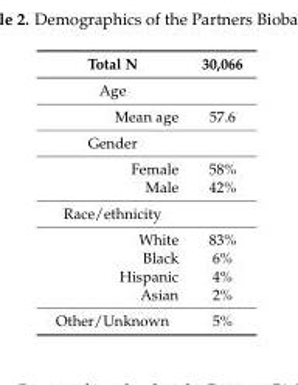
<table><thead><tr><td>Total N</td><td>30,066</td></tr></thead><tbody><tr><td colspan="2">Age</td></tr><tr><td>Mean age</td><td>57.6</td></tr><tr><td colspan="2">Gender</td></tr><tr><td>Female</td><td>58%</td></tr><tr><td>Male</td><td>42%</td></tr><tr><td colspan="2">Race/ethnicity</td></tr><tr><td>White</td><td>83%</td></tr><tr><td>Black</td><td>6%</td></tr><tr><td>Hispanic</td><td>4%</td></tr><tr><td>Asian</td><td>2%</td></tr><tr><td>Other/Unknown</td><td>5%</td></tr></tbody></table>